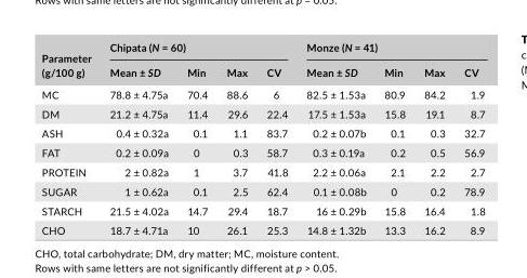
<table><thead><tr><td rowspan="2">Parameter (g/100 g)</td><td colspan="4">Chipata (N = 60)</td><td colspan="4">Monze (N = 41)</td></tr><tr><td>Mean ± SD</td><td>Min</td><td>Max</td><td>CV</td><td>Mean ± SD</td><td>Min</td><td>Max</td><td>CV</td></tr></thead><tbody><tr><td>MC</td><td>78.8 ± 4.75a</td><td>70.4</td><td>88.6</td><td>6</td><td>82.5 ± 1.53a</td><td>80.9</td><td>84.2</td><td>1.9</td></tr><tr><td>DM</td><td>21.2 ± 4.75a</td><td>11.4</td><td>29.6</td><td>22.4</td><td>17.5 ± 1.53a</td><td>15.8</td><td>19.1</td><td>8.7</td></tr><tr><td>ASH</td><td>0.4 ± 0.32a</td><td>0.1</td><td>1.1</td><td>83.7</td><td>0.2 ± 0.07b</td><td>0.1</td><td>0.3</td><td>32.7</td></tr><tr><td>FAT</td><td>0.2 ± 0.09a</td><td>0</td><td>0.3</td><td>58.7</td><td>0.3 ± 0.19a</td><td>0.2</td><td>0.5</td><td>56.9</td></tr><tr><td>PROTEIN</td><td>2 ± 0.82a</td><td>1</td><td>3.7</td><td>41.8</td><td>2.2 ± 0.06a</td><td>2.1</td><td>2.2</td><td>2.7</td></tr><tr><td>SUGAR</td><td>1 ± 0.62a</td><td>0.1</td><td>2.5</td><td>62.4</td><td>0.1 ± 0.08b</td><td>0</td><td>0.2</td><td>78.9</td></tr><tr><td>STARCH</td><td>21.5 ± 4.02a</td><td>14.7</td><td>29.4</td><td>18.7</td><td>16 ± 0.29b</td><td>15.8</td><td>16.4</td><td>1.8</td></tr><tr><td>CHO</td><td>18.7 ± 4.71a</td><td>10</td><td>26.1</td><td>25.3</td><td>14.8 ± 1.32b</td><td>13.3</td><td>16.2</td><td>8.9</td></tr></tbody></table>